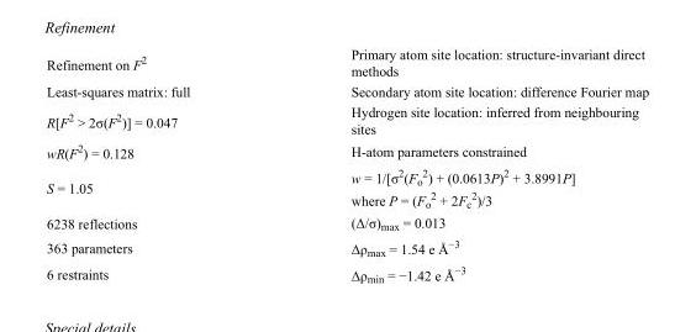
<table><tbody><tr><td>Refinement on F<sup>2</sup></td><td>Primary atom site location: structure-invariant direct methods</td></tr><tr><td>Least-squares matrix: full</td><td>Secondary atom site location: difference Fourier map</td></tr><tr><td>R[F<sup>2</sup> &gt; 2σ(F<sup>2</sup>)] = 0.047</td><td>Hydrogen site location: inferred from neighbouring sites</td></tr><tr><td>wR(F<sup>2</sup>) = 0.128</td><td>H-atom parameters constrained</td></tr><tr><td>S = 1.05</td><td>w = 1/[σ<sup>2</sup>(F<sub>o</sub> <sup>2</sup>) + (0.0613P)<sup>2</sup> + 3.8991P] where P = (F<sub>o</sub> <sup>2</sup> + 2F<sub>c</sub> <sup>2</sup>)/3</td></tr><tr><td>6238 reflections</td><td>(Δ/σ)<sub>max</sub> = 0.013</td></tr><tr><td>363 parameters</td><td>Δρ<sub>max</sub> = 1.54 e Å<sup>−3</sup></td></tr><tr><td>6 restraints</td><td>Δρ<sub>min</sub> = −1.42 e Å<sup>−3</sup></td></tr></tbody></table>